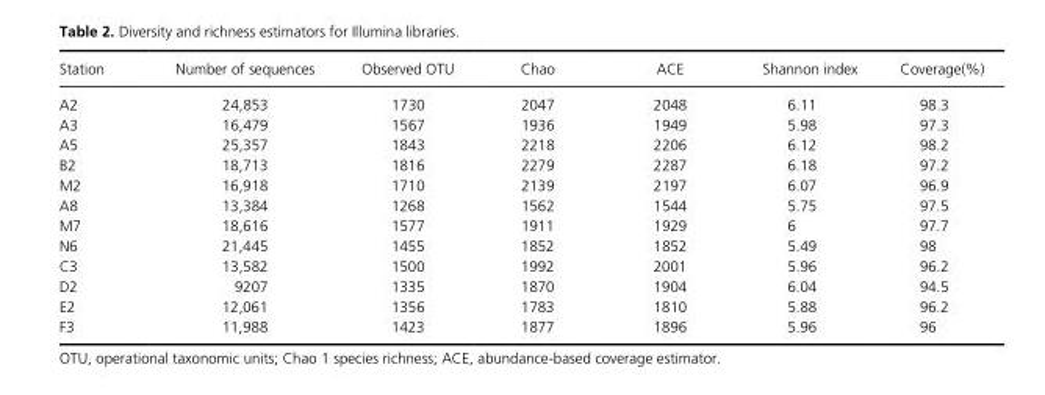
<table><thead><tr><td>Station</td><td>Number of sequences</td><td>Observed OTU</td><td>Chao</td><td>ACE</td><td>Shannon index</td><td>Coverage(%)</td></tr></thead><tbody><tr><td>A2</td><td>24,853</td><td>1730</td><td>2047</td><td>2048</td><td>6.11</td><td>98.3</td></tr><tr><td>A3</td><td>16,479</td><td>1567</td><td>1936</td><td>1949</td><td>5.98</td><td>97.3</td></tr><tr><td>A5</td><td>25,357</td><td>1843</td><td>2218</td><td>2206</td><td>6.12</td><td>98.2</td></tr><tr><td>B2</td><td>18,713</td><td>1816</td><td>2279</td><td>2287</td><td>6.18</td><td>97.2</td></tr><tr><td>M2</td><td>16,918</td><td>1710</td><td>2139</td><td>2197</td><td>6.07</td><td>96.9</td></tr><tr><td>A8</td><td>13,384</td><td>1268</td><td>1562</td><td>1544</td><td>5.75</td><td>97.5</td></tr><tr><td>M7</td><td>18,616</td><td>1577</td><td>1911</td><td>1929</td><td>6</td><td>97.7</td></tr><tr><td>N6</td><td>21,445</td><td>1455</td><td>1852</td><td>1852</td><td>5.49</td><td>98</td></tr><tr><td>C3</td><td>13,582</td><td>1500</td><td>1992</td><td>2001</td><td>5.96</td><td>96.2</td></tr><tr><td>D2</td><td>9207</td><td>1335</td><td>1870</td><td>1904</td><td>6.04</td><td>94.5</td></tr><tr><td>E2</td><td>12,061</td><td>1356</td><td>1783</td><td>1810</td><td>5.88</td><td>96.2</td></tr><tr><td>F3</td><td>11,988</td><td>1423</td><td>1877</td><td>1896</td><td>5.96</td><td>96</td></tr></tbody></table>